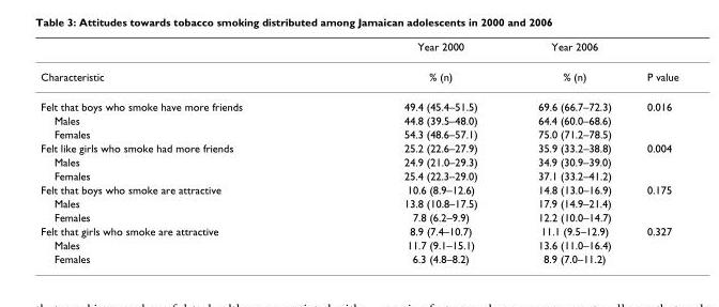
<table><thead><tr><td></td><td>Year 2000</td><td>Year 2006</td><td></td></tr></thead><tbody><tr><td>Characteristic</td><td>% (n)</td><td>% (n)</td><td>P value</td></tr><tr><td>Felt that boys who smoke have more friends</td><td>49.4 (45.4–51.5)</td><td>69.6 (66.7–72.3)</td><td>0.016</td></tr><tr><td>Males</td><td>44.8 (39.5–48.0)</td><td>64.4 (60.0–68.6)</td><td></td></tr><tr><td>Females</td><td>54.3 (48.6–57.1)</td><td>75.0 (71.2–78.5)</td><td></td></tr><tr><td>Felt like girls who smoke had more friends</td><td>25.2 (22.6–27.9)</td><td>35.9 (33.2–38.8)</td><td>0.004</td></tr><tr><td>Males</td><td>24.9 (21.0–29.3)</td><td>34.9 (30.9–39.0)</td><td></td></tr><tr><td>Females</td><td>25.4 (22.3–29.0)</td><td>37.1 (33.2–41.2)</td><td></td></tr><tr><td>Felt that boys who smoke are attractive</td><td>10.6 (8.9–12.6)</td><td>14.8 (13.0–16.9)</td><td>0.175</td></tr><tr><td>Males</td><td>13.8 (10.8–17.5)</td><td>17.9 (14.9–21.4)</td><td></td></tr><tr><td>Females</td><td>7.8 (6.2–9.9)</td><td>12.2 (10.0–14.7)</td><td></td></tr><tr><td>Felt that girls who smoke are attractive</td><td>8.9 (7.4–10.7)</td><td>11.1 (9.5–12.9)</td><td>0.327</td></tr><tr><td>Males</td><td>11.7 (9.1–15.1)</td><td>13.6 (11.0–16.4)</td><td></td></tr><tr><td>Females</td><td>6.3 (4.8–8.2)</td><td>8.9 (7.0–11.2)</td><td></td></tr></tbody></table>